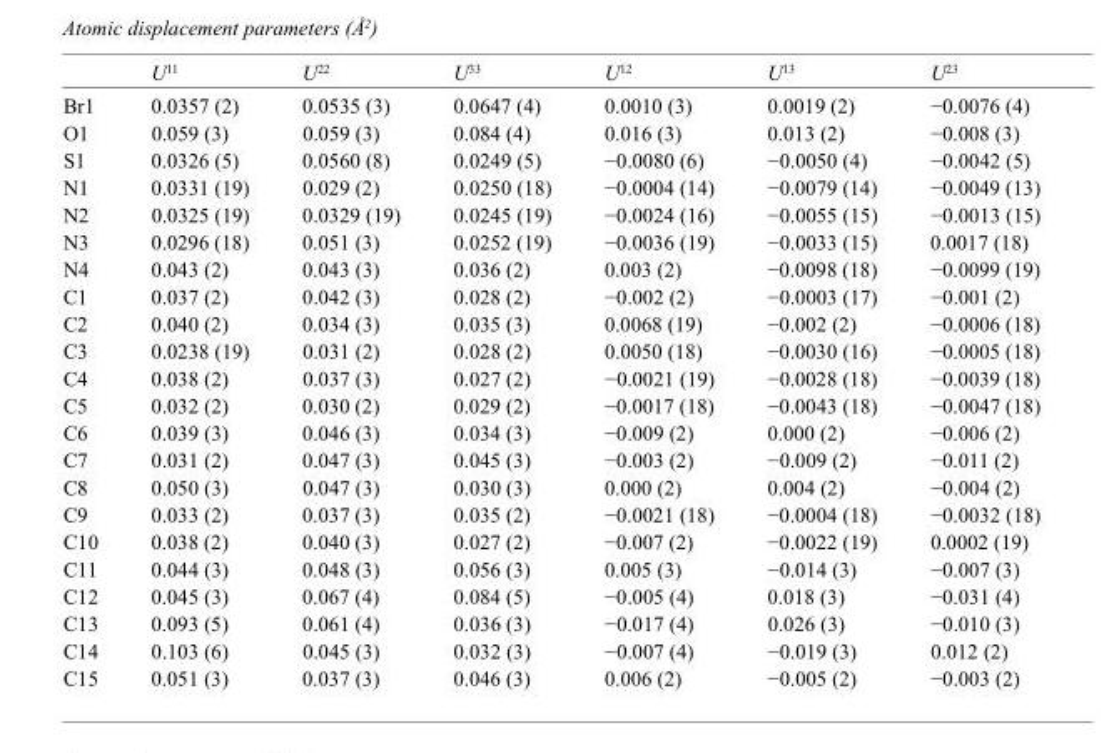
<table><thead><tr><td></td><td>U<sup>11</sup></td><td>U<sup>22</sup></td><td>U<sup>33</sup></td><td>U<sup>12</sup></td><td>U<sup>13</sup></td><td>U<sup>23</sup></td></tr></thead><tbody><tr><td>Br1</td><td>0.0357 (2)</td><td>0.0535 (3)</td><td>0.0647 (4)</td><td>0.0010 (3)</td><td>0.0019 (2)</td><td>−0.0076 (4)</td></tr><tr><td>O1</td><td>0.059 (3)</td><td>0.059 (3)</td><td>0.084 (4)</td><td>0.016 (3)</td><td>0.013 (2)</td><td>−0.008 (3)</td></tr><tr><td>S1</td><td>0.0326 (5)</td><td>0.0560 (8)</td><td>0.0249 (5)</td><td>−0.0080 (6)</td><td>−0.0050 (4)</td><td>−0.0042 (5)</td></tr><tr><td>N1</td><td>0.0331 (19)</td><td>0.029 (2)</td><td>0.0250 (18)</td><td>−0.0004 (14)</td><td>−0.0079 (14)</td><td>−0.0049 (13)</td></tr><tr><td>N2</td><td>0.0325 (19)</td><td>0.0329 (19)</td><td>0.0245 (19)</td><td>−0.0024 (16)</td><td>−0.0055 (15)</td><td>−0.0013 (15)</td></tr><tr><td>N3</td><td>0.0296 (18)</td><td>0.051 (3)</td><td>0.0252 (19)</td><td>−0.0036 (19)</td><td>−0.0033 (15)</td><td>0.0017 (18)</td></tr><tr><td>N4</td><td>0.043 (2)</td><td>0.043 (3)</td><td>0.036 (2)</td><td>0.003 (2)</td><td>−0.0098 (18)</td><td>−0.0099 (19)</td></tr><tr><td>C1</td><td>0.037 (2)</td><td>0.042 (3)</td><td>0.028 (2)</td><td>−0.002 (2)</td><td>−0.0003 (17)</td><td>−0.001 (2)</td></tr><tr><td>C2</td><td>0.040 (2)</td><td>0.034 (3)</td><td>0.035 (3)</td><td>0.0068 (19)</td><td>−0.002 (2)</td><td>−0.0006 (18)</td></tr><tr><td>C3</td><td>0.0238 (19)</td><td>0.031 (2)</td><td>0.028 (2)</td><td>0.0050 (18)</td><td>−0.0030 (16)</td><td>−0.0005 (18)</td></tr><tr><td>C4</td><td>0.038 (2)</td><td>0.037 (3)</td><td>0.027 (2)</td><td>−0.0021 (19)</td><td>−0.0028 (18)</td><td>−0.0039 (18)</td></tr><tr><td>C5</td><td>0.032 (2)</td><td>0.030 (2)</td><td>0.029 (2)</td><td>−0.0017 (18)</td><td>−0.0043 (18)</td><td>−0.0047 (18)</td></tr><tr><td>C6</td><td>0.039 (3)</td><td>0.046 (3)</td><td>0.034 (3)</td><td>−0.009 (2)</td><td>0.000 (2)</td><td>−0.006 (2)</td></tr><tr><td>C7</td><td>0.031 (2)</td><td>0.047 (3)</td><td>0.045 (3)</td><td>−0.003 (2)</td><td>−0.009 (2)</td><td>−0.011 (2)</td></tr><tr><td>C8</td><td>0.050 (3)</td><td>0.047 (3)</td><td>0.030 (3)</td><td>0.000 (2)</td><td>0.004 (2)</td><td>−0.004 (2)</td></tr><tr><td>C9</td><td>0.033 (2)</td><td>0.037 (3)</td><td>0.035 (2)</td><td>−0.0021 (18)</td><td>−0.0004 (18)</td><td>−0.0032 (18)</td></tr><tr><td>C10</td><td>0.038 (2)</td><td>0.040 (3)</td><td>0.027 (2)</td><td>−0.007 (2)</td><td>−0.0022 (19)</td><td>0.0002 (19)</td></tr><tr><td>C11</td><td>0.044 (3)</td><td>0.048 (3)</td><td>0.056 (3)</td><td>0.005 (3)</td><td>−0.014 (3)</td><td>−0.007 (3)</td></tr><tr><td>C12</td><td>0.045 (3)</td><td>0.067 (4)</td><td>0.084 (5)</td><td>−0.005 (4)</td><td>0.018 (3)</td><td>−0.031 (4)</td></tr><tr><td>C13</td><td>0.093 (5)</td><td>0.061 (4)</td><td>0.036 (3)</td><td>−0.017 (4)</td><td>0.026 (3)</td><td>−0.010 (3)</td></tr><tr><td>C14</td><td>0.103 (6)</td><td>0.045 (3)</td><td>0.032 (3)</td><td>−0.007 (4)</td><td>−0.019 (3)</td><td>0.012 (2)</td></tr><tr><td>C15</td><td>0.051 (3)</td><td>0.037 (3)</td><td>0.046 (3)</td><td>0.006 (2)</td><td>−0.005 (2)</td><td>−0.003 (2)</td></tr></tbody></table>